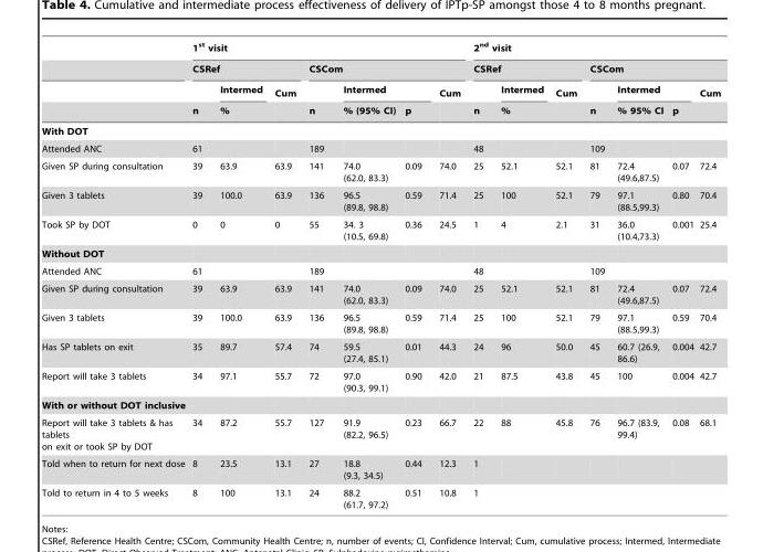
<table><thead><tr><td rowspan="4"></td><td colspan="7">1<sup>st</sup> visit</td><td colspan="7">2<sup>nd</sup> visit</td></tr><tr><td colspan="3">CSRef</td><td colspan="4">CSCom</td><td colspan="3">CSRef</td><td colspan="4">CSCom</td></tr><tr><td rowspan="2">n</td><td rowspan="2">Intermed %</td><td rowspan="2">Cum</td><td rowspan="2">n</td><td colspan="2">Intermed</td><td rowspan="2">Cum</td><td rowspan="2">n</td><td rowspan="2">Intermed %</td><td rowspan="2">Cum</td><td rowspan="2">n</td><td colspan="2">Intermed</td><td rowspan="2">Cum</td></tr><tr><td>% (95% CI)</td><td>p</td><td>% 95% CI</td><td>p</td></tr></thead><tbody><tr><td colspan="15">With DOT</td></tr><tr><td>Attended ANC</td><td>61</td><td></td><td></td><td>189</td><td></td><td></td><td></td><td>48</td><td></td><td></td><td>109</td><td></td><td></td><td></td></tr><tr><td>Given SP during consultation</td><td>39</td><td>63.9</td><td>63.9</td><td>141</td><td>74.0 (62.0, 83.3)</td><td>0.09</td><td>74.0</td><td>25</td><td>52.1</td><td>52.1</td><td>81</td><td>72.4 (49.6,87.5)</td><td>0.07</td><td>72.4</td></tr><tr><td>Given 3 tablets</td><td>39</td><td>100.0</td><td>63.9</td><td>136</td><td>96.5 (89.8, 98.8)</td><td>0.59</td><td>71.4</td><td>25</td><td>100</td><td>52.1</td><td>79</td><td>97.1 (88.5,99.3)</td><td>0.80</td><td>70.4</td></tr><tr><td>Took SP by DOT</td><td>0</td><td>0</td><td>0</td><td>55</td><td>34. 3 (10.5, 69.8)</td><td>0.36</td><td>24.5</td><td>1</td><td>4</td><td>2.1</td><td>31</td><td>36.0 (10.4,73.3)</td><td>0.001</td><td>25.4</td></tr><tr><td colspan="15">Without DOT</td></tr><tr><td>Attended ANC</td><td>61</td><td></td><td></td><td>189</td><td></td><td></td><td></td><td>48</td><td></td><td></td><td>109</td><td></td><td></td><td></td></tr><tr><td>Given SP during consultation</td><td>39</td><td>63.9</td><td>63.9</td><td>141</td><td>74.0 (62.0, 83.3)</td><td>0.09</td><td>74.0</td><td>25</td><td>52.1</td><td>52.1</td><td>81</td><td>72.4 (49.6,87.5)</td><td>0.07</td><td>72.4</td></tr><tr><td>Given 3 tablets</td><td>39</td><td>100.0</td><td>63.9</td><td>136</td><td>96.5 (89.8, 98.8)</td><td>0.59</td><td>71.4</td><td>25</td><td>100</td><td>52.1</td><td>79</td><td>97.1 (88.5,99.3)</td><td>0.59</td><td>70.4</td></tr><tr><td>Has SP tablets on exit</td><td>35</td><td>89.7</td><td>57.4</td><td>74</td><td>59.5 (27.4, 85.1)</td><td>0.01</td><td>44.3</td><td>24</td><td>96</td><td>50.0</td><td>45</td><td>60.7 (26.9, 86.6)</td><td>0.004</td><td>42.7</td></tr><tr><td>Report will take 3 tablets</td><td>34</td><td>97.1</td><td>55.7</td><td>72</td><td>97.0 (90.3, 99.1)</td><td>0.90</td><td>42.0</td><td>21</td><td>87.5</td><td>43.8</td><td>45</td><td>100</td><td>0.004</td><td>42.7</td></tr><tr><td colspan="15">With or without DOT inclusive</td></tr><tr><td>Report will take 3 tablets &amp; has tablets on exit or took SP by DOT</td><td>34</td><td>87.2</td><td>55.7</td><td>127</td><td>91.9 (82.2, 96.5)</td><td>0.23</td><td>66.7</td><td>22</td><td>88</td><td>45.8</td><td>76</td><td>96.7 (83.9, 99.4)</td><td>0.08</td><td>68.1</td></tr><tr><td>Told when to return for next dose</td><td>8</td><td>23.5</td><td>13.1</td><td>27</td><td>18.8 (9.3, 34.5)</td><td>0.44</td><td>12.3</td><td>1</td><td></td><td></td><td></td><td></td><td></td><td></td></tr><tr><td>Told to return in 4 to 5 weeks</td><td>8</td><td>100</td><td>13.1</td><td>24</td><td>88.2 (61.7, 97.2)</td><td>0.51</td><td>10.8</td><td>1</td><td></td><td></td><td></td><td></td><td></td><td></td></tr></tbody></table>